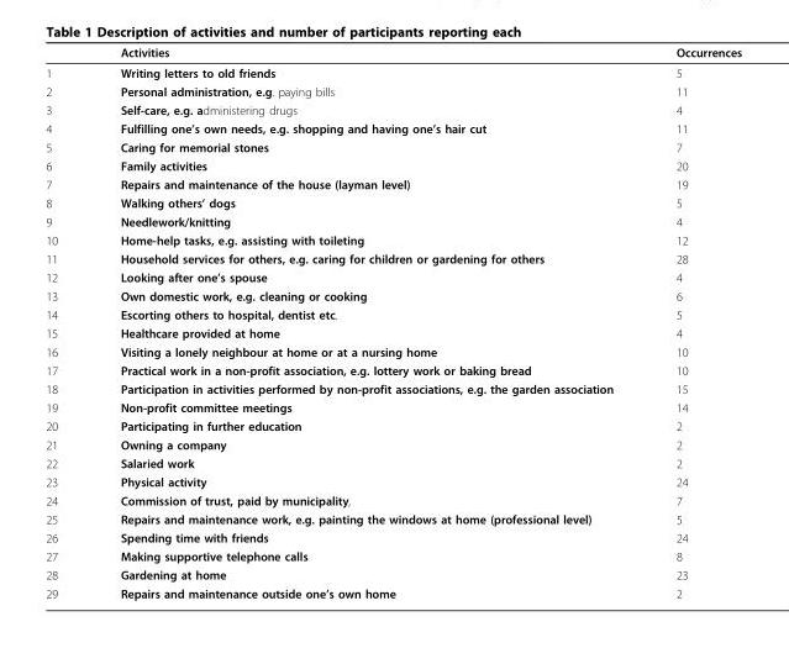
<table><thead><tr><td></td><td>Activities</td><td>Occurrences</td></tr></thead><tbody><tr><td>1</td><td>Writing letters to old friends</td><td>5</td></tr><tr><td>2</td><td>Personal administration, e.g. paying bills</td><td>11</td></tr><tr><td>3</td><td>Self-care, e.g. administering drugs</td><td>4</td></tr><tr><td>4</td><td>Fulfilling one’s own needs, e.g. shopping and having one’s hair cut</td><td>11</td></tr><tr><td>5</td><td>Caring for memorial stones</td><td>7</td></tr><tr><td>6</td><td>Family activities</td><td>20</td></tr><tr><td>7</td><td>Repairs and maintenance of the house (layman level)</td><td>19</td></tr><tr><td>8</td><td>Walking others’ dogs</td><td>5</td></tr><tr><td>9</td><td>Needlework/knitting</td><td>4</td></tr><tr><td>10</td><td>Home-help tasks, e.g. assisting with toileting</td><td>12</td></tr><tr><td>11</td><td>Household services for others, e.g. caring for children or gardening for others</td><td>28</td></tr><tr><td>12</td><td>Looking after one’s spouse</td><td>4</td></tr><tr><td>13</td><td>Own domestic work, e.g. cleaning or cooking</td><td>6</td></tr><tr><td>14</td><td>Escorting others to hospital, dentist etc.</td><td>5</td></tr><tr><td>15</td><td>Healthcare provided at home</td><td>4</td></tr><tr><td>16</td><td>Visiting a lonely neighbour at home or at a nursing home</td><td>10</td></tr><tr><td>17</td><td>Practical work in a non-profit association, e.g. lottery work or baking bread</td><td>10</td></tr><tr><td>18</td><td>Participation in activities performed by non-profit associations, e.g. the garden association</td><td>15</td></tr><tr><td>19</td><td>Non-profit committee meetings</td><td>14</td></tr><tr><td>20</td><td>Participating in further education</td><td>2</td></tr><tr><td>21</td><td>Owning a company</td><td>2</td></tr><tr><td>22</td><td>Salaried work</td><td>2</td></tr><tr><td>23</td><td>Physical activity</td><td>24</td></tr><tr><td>24</td><td>Commission of trust, paid by municipality,</td><td>7</td></tr><tr><td>25</td><td>Repairs and maintenance work, e.g. painting the windows at home (professional level)</td><td>5</td></tr><tr><td>26</td><td>Spending time with friends</td><td>24</td></tr><tr><td>27</td><td>Making supportive telephone calls</td><td>8</td></tr><tr><td>28</td><td>Gardening at home</td><td>23</td></tr><tr><td>29</td><td>Repairs and maintenance outside one’s own home</td><td>2</td></tr></tbody></table>